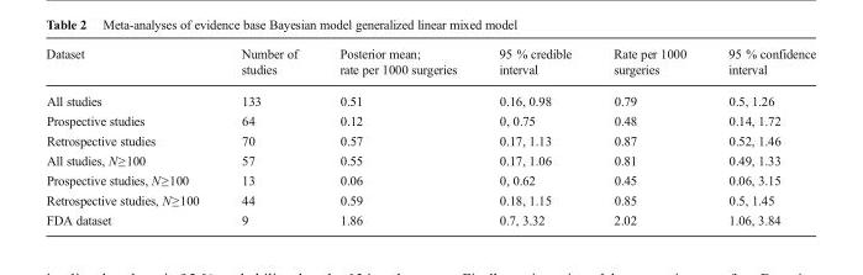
<table><thead><tr><td>Dataset</td><td>Number of studies</td><td>Posterior mean; rate per 1000 surgeries</td><td>95 % credible interval</td><td>Rate per 1000 surgeries</td><td>95 % confidence interval</td></tr></thead><tbody><tr><td>All studies</td><td>133</td><td>0.51</td><td>0.16, 0.98</td><td>0.79</td><td>0.5, 1.26</td></tr><tr><td>Prospective studies</td><td>64</td><td>0.12</td><td>0, 0.75</td><td>0.48</td><td>0.14, 1.72</td></tr><tr><td>Retrospective studies</td><td>70</td><td>0.57</td><td>0.17, 1.13</td><td>0.87</td><td>0.52, 1.46</td></tr><tr><td>All studies, N≥100</td><td>57</td><td>0.55</td><td>0.17, 1.06</td><td>0.81</td><td>0.49, 1.33</td></tr><tr><td>Prospective studies, N≥100</td><td>13</td><td>0.06</td><td>0, 0.62</td><td>0.45</td><td>0.06, 3.15</td></tr><tr><td>Retrospective studies, N≥100</td><td>44</td><td>0.59</td><td>0.18, 1.15</td><td>0.85</td><td>0.5, 1.45</td></tr><tr><td>FDA dataset</td><td>9</td><td>1.86</td><td>0.7, 3.32</td><td>2.02</td><td>1.06, 3.84</td></tr></tbody></table>